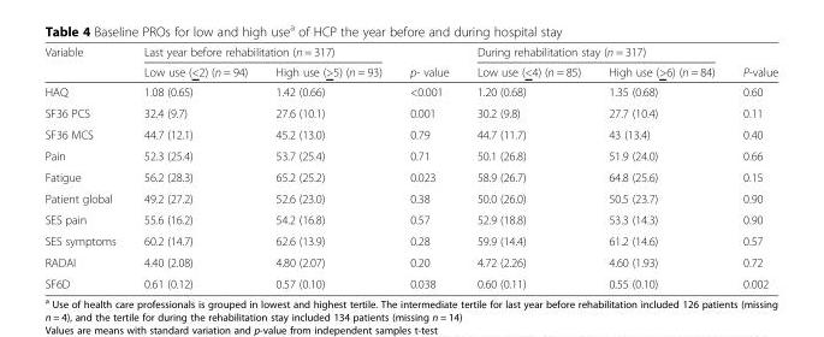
<table><thead><tr><td rowspan="2">Variable</td><td colspan="2">Last year before rehabilitation (n = 317)</td><td rowspan="2">p- value</td><td colspan="2">During rehabilitation stay (n = 317)</td><td rowspan="2">P-value</td></tr><tr><td>Low use (&lt;2) (n = 94)</td><td>High use (&gt;5) (n = 93)</td><td>Low use (&lt;4) (n = 85)</td><td>High use (&gt;6) (n = 84)</td></tr></thead><tbody><tr><td>HAQ</td><td>1.08 (0.65)</td><td>1.42 (0.66)</td><td>&lt;0.001</td><td>1.20 (0.68)</td><td>1.35 (0.68)</td><td>0.60</td></tr><tr><td>SF36 PCS</td><td>32.4 (9.7)</td><td>27.6 (10.1)</td><td>0.001</td><td>30.2 (9.8)</td><td>27.7 (10.4)</td><td>0.11</td></tr><tr><td>SF36 MCS</td><td>44.7 (12.1)</td><td>45.2 (13.0)</td><td>0.79</td><td>44.7 (11.7)</td><td>43 (13.4)</td><td>0.40</td></tr><tr><td>Pain</td><td>52.3 (25.4)</td><td>53.7 (25.4)</td><td>0.71</td><td>50.1 (26.8)</td><td>51.9 (24.0)</td><td>0.66</td></tr><tr><td>Fatigue</td><td>56.2 (28.3)</td><td>65.2 (25.2)</td><td>0.023</td><td>58.9 (26.7)</td><td>64.8 (25.6)</td><td>0.15</td></tr><tr><td>Patient global</td><td>49.2 (27.2)</td><td>52.6 (23.0)</td><td>0.38</td><td>50.0 (26.0)</td><td>50.5 (23.7)</td><td>0.90</td></tr><tr><td>SES pain</td><td>55.6 (16.2)</td><td>54.2 (16.8)</td><td>0.57</td><td>52.9 (18.8)</td><td>53.3 (14.3)</td><td>0.90</td></tr><tr><td>SES symptoms</td><td>60.2 (14.7)</td><td>62.6 (13.9)</td><td>0.28</td><td>59.9 (14.4)</td><td>61.2 (14.6)</td><td>0.57</td></tr><tr><td>RADAI</td><td>4.40 (2.08)</td><td>4.80 (2.07)</td><td>0.20</td><td>4.72 (2.26)</td><td>4.60 (1.93)</td><td>0.72</td></tr><tr><td>SF6D</td><td>0.61 (0.12)</td><td>0.57 (0.10)</td><td>0.038</td><td>0.60 (0.11)</td><td>0.55 (0.10)</td><td>0.002</td></tr></tbody></table>